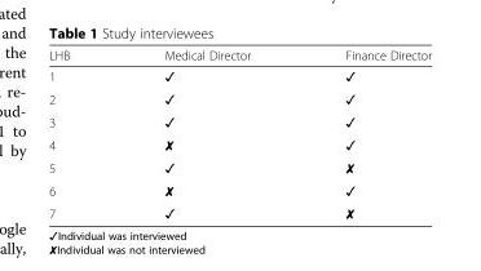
<table><thead><tr><td>LHB</td><td>Medical Director</td><td>Finance Director</td></tr></thead><tbody><tr><td>1</td><td>✓</td><td>✓</td></tr><tr><td>2</td><td>✓</td><td>✓</td></tr><tr><td>3</td><td>✓</td><td>✓</td></tr><tr><td>4</td><td>✘</td><td>✓</td></tr><tr><td>5</td><td>✓</td><td>✘</td></tr><tr><td>6</td><td>✘</td><td>✓</td></tr><tr><td>7</td><td>✓</td><td>✘</td></tr></tbody></table>